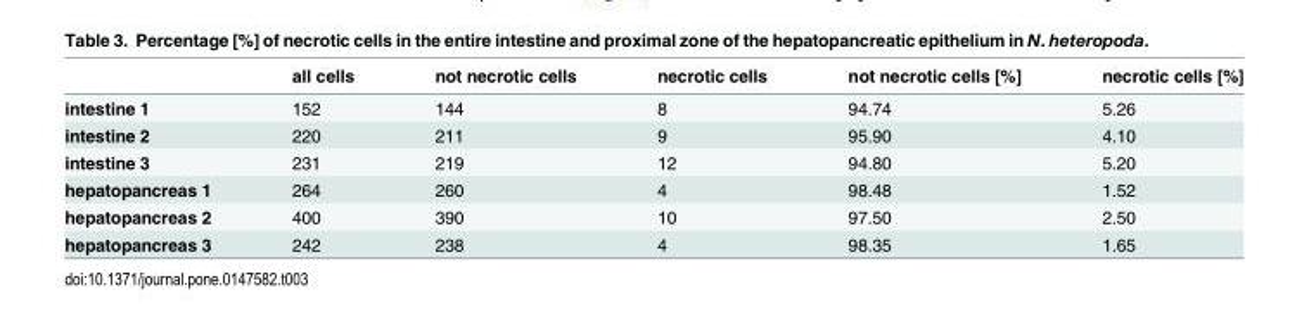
<table><thead><tr><td></td><td>all cells</td><td>not necrotic cells</td><td>necrotic cells</td><td>not necrotic cells [%]</td><td>necrotic cells [%]</td></tr></thead><tbody><tr><td>intestine 1</td><td>152</td><td>144</td><td>8</td><td>94.74</td><td>5.26</td></tr><tr><td>intestine 2</td><td>220</td><td>211</td><td>9</td><td>95.90</td><td>4.10</td></tr><tr><td>intestine 3</td><td>231</td><td>219</td><td>12</td><td>94.80</td><td>5.20</td></tr><tr><td>hepatopancreas 1</td><td>264</td><td>260</td><td>4</td><td>98.48</td><td>1.52</td></tr><tr><td>hepatopancreas 2</td><td>400</td><td>390</td><td>10</td><td>97.50</td><td>2.50</td></tr><tr><td>hepatopancreas 3</td><td>242</td><td>238</td><td>4</td><td>98.35</td><td>1.65</td></tr></tbody></table>